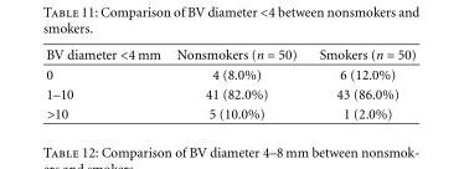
<table><thead><tr><td>BV diameter &lt;4 mm</td><td>Nonsmokers (n = 50)</td><td>Smokers (n = 50)</td></tr></thead><tbody><tr><td>0</td><td>4 (8.0%)</td><td>6 (12.0%)</td></tr><tr><td>1–10</td><td>41 (82.0%)</td><td>43 (86.0%)</td></tr><tr><td>&gt;10</td><td>5 (10.0%)</td><td>1 (2.0%)</td></tr></tbody></table>